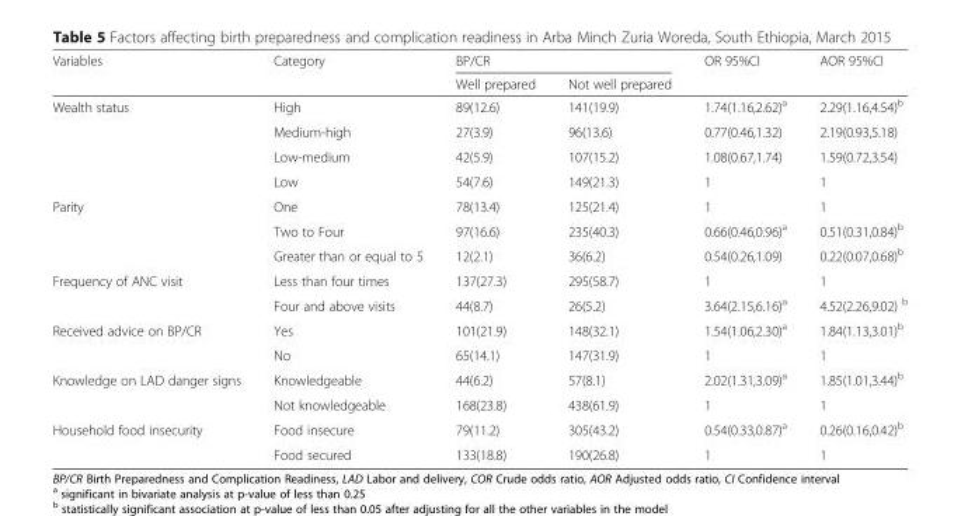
<table><thead><tr><td rowspan="2">Variables</td><td rowspan="2">Category</td><td colspan="2">BP/CR</td><td rowspan="2">OR 95%CI</td><td rowspan="2">AOR 95%CI</td></tr><tr><td>Well prepared</td><td>Not well prepared</td></tr></thead><tbody><tr><td rowspan="4">Wealth status</td><td>High</td><td>89(12.6)</td><td>141(19.9)</td><td>1.74(1.16,2.62)<sup>a</sup></td><td>2.29(1.16,4.54)<sup>b</sup></td></tr><tr><td>Medium-high</td><td>27(3.9)</td><td>96(13.6)</td><td>0.77(0.46,1.32)</td><td>2.19(0.93,5.18)</td></tr><tr><td>Low-medium</td><td>42(5.9)</td><td>107(15.2)</td><td>1.08(0.67,1.74)</td><td>1.59(0.72,3.54)</td></tr><tr><td>Low</td><td>54(7.6)</td><td>149(21.3)</td><td>1</td><td>1</td></tr><tr><td rowspan="3">Parity</td><td>One</td><td>78(13.4)</td><td>125(21.4)</td><td>1</td><td>1</td></tr><tr><td>Two to Four</td><td>97(16.6)</td><td>235(40.3)</td><td>0.66(0.46,0.96)<sup>a</sup></td><td>0.51(0.31,0.84)<sup>b</sup></td></tr><tr><td>Greater than or equal to 5</td><td>12(2.1)</td><td>36(6.2)</td><td>0.54(0.26,1.09)</td><td>0.22(0.07,0.68)<sup>b</sup></td></tr><tr><td rowspan="2">Frequency of ANC visit</td><td>Less than four times</td><td>137(27.3)</td><td>295(58.7)</td><td>1</td><td>1</td></tr><tr><td>Four and above visits</td><td>44(8.7)</td><td>26(5.2)</td><td>3.64(2.15,6.16)<sup>a</sup></td><td>4.52(2.26,9.02) <sup>b</sup></td></tr><tr><td rowspan="2">Received advice on BP/CR</td><td>Yes</td><td>101(21.9)</td><td>148(32.1)</td><td>1.54(1.06,2.30)<sup>a</sup></td><td>1.84(1.13,3.01)<sup>b</sup></td></tr><tr><td>No</td><td>65(14.1)</td><td>147(31.9)</td><td>1</td><td>1</td></tr><tr><td rowspan="2">Knowledge on LAD danger signs</td><td>Knowledgeable</td><td>44(6.2)</td><td>57(8.1)</td><td>2.02(1.31,3.09)<sup>a</sup></td><td>1.85(1.01,3.44)<sup>b</sup></td></tr><tr><td>Not knowledgeable</td><td>168(23.8)</td><td>438(61.9)</td><td>1</td><td>1</td></tr><tr><td rowspan="2">Household food insecurity</td><td>Food insecure</td><td>79(11.2)</td><td>305(43.2)</td><td>0.54(0.33,0.87)<sup>a</sup></td><td>0.26(0.16,0.42)<sup>b</sup></td></tr><tr><td>Food secured</td><td>133(18.8)</td><td>190(26.8)</td><td>1</td><td>1</td></tr></tbody></table>